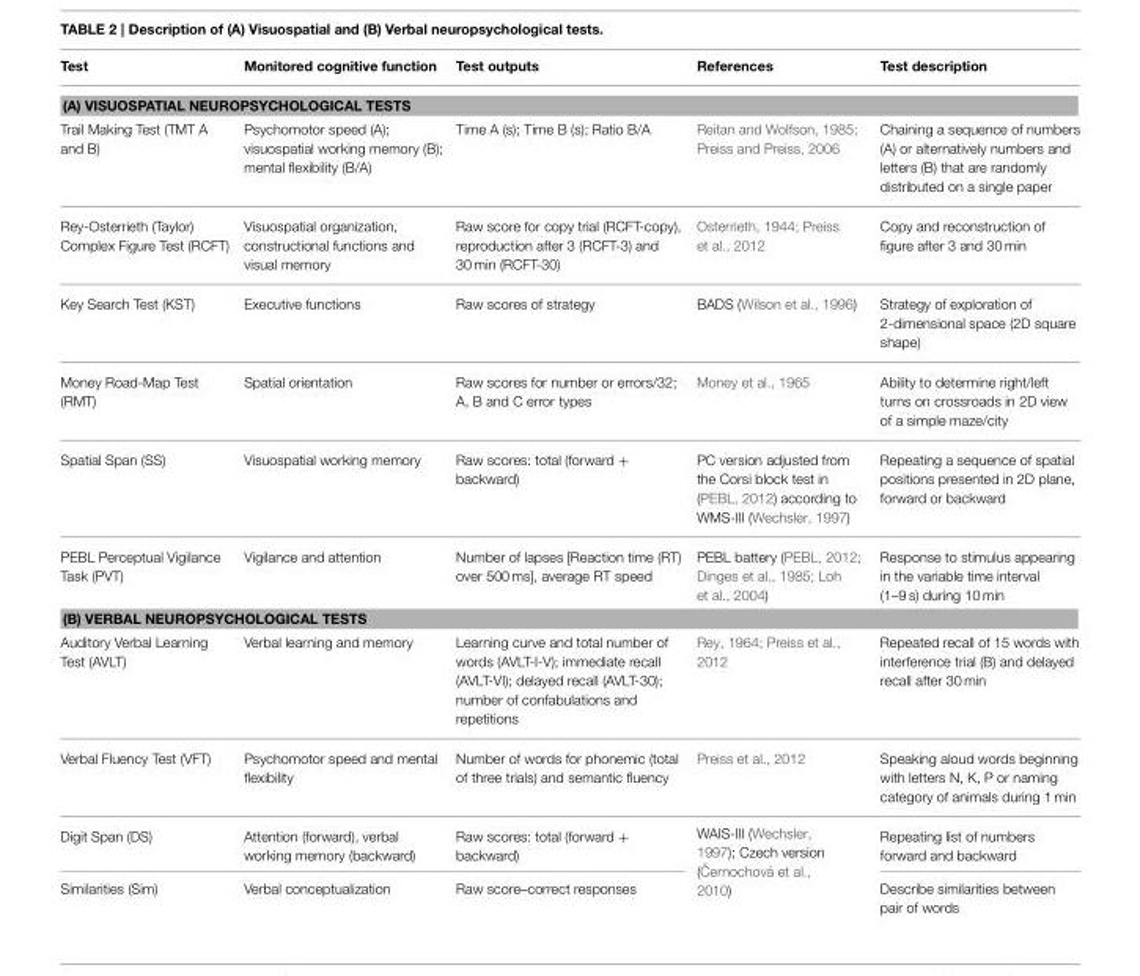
<table><thead><tr><td>Test</td><td>Monitored cognitive function</td><td>Test outputs</td><td>References</td><td>Test description</td></tr></thead><tbody><tr><td colspan="5">(A) VISUOSPATIAL NEUROPSYCHOLOGICAL TESTS</td></tr><tr><td>Trail Making Test (TMT A and B)</td><td>Psychomotor speed (A); visuospatial working memory (B); mental flexibility (B/A)</td><td>Time A (s); Time B (s); Ratio B/A</td><td>Reitan and Wolfson, 1985; Preiss and Preiss, 2006</td><td>Chaining a sequence of numbers (A) or alternatively numbers and letters (B) that are randomly distributed on a single paper</td></tr><tr><td>Rey-Osterrieth (Taylor) Complex Figure Test (RCFT)</td><td>Visuospatial organization, constructional functions and visual memory</td><td>Raw score for copy trial (RCFT-copy), reproduction after 3 (RCFT-3) and 30 min (RCFT-30)</td><td>Osterrieth, 1944; Preiss et al., 2012</td><td>Copy and reconstruction of figure after 3 and 30 min</td></tr><tr><td>Key Search Test (KST)</td><td>Executive functions</td><td>Raw scores of strategy</td><td>BADS (Wilson et al., 1996)</td><td>Strategy of exploration of 2-dimensional space (2D square shape)</td></tr><tr><td>Money Road-Map Test (RMT)</td><td>Spatial orientation</td><td>Raw scores for number or errors/32; A, B and C error types</td><td>Money et al., 1965</td><td>Ability to determine right/left turns on crossroads in 2D view of a simple maze/city</td></tr><tr><td>Spatial Span (SS)</td><td>Visuospatial working memory</td><td>Raw scores: total (forward + backward)</td><td>PC version adjusted from the Corsi block test in (PEBL, 2012) according to WMS-III (Wechsler, 1997)</td><td>Repeating a sequence of spatial positions presented in 2D plane, forward or backward</td></tr><tr><td>PEBL Perceptual Vigilance Task (PVT)</td><td>Vigilance and attention</td><td>Number of lapses [Reaction time (RT) over 500 ms], average RT speed</td><td>PEBL battery (PEBL, 2012; Dinges et al., 1985; Loh et al., 2004)</td><td>Response to stimulus appearing in the variable time interval (1–9 s) during 10 min</td></tr><tr><td colspan="5">(B) VERBAL NEUROPSYCHOLOGICAL TESTS</td></tr><tr><td>Auditory Verbal Learning Test (AVLT)</td><td>Verbal learning and memory</td><td>Learning curve and total number of words (AVLT-I-V); immediate recall (AVLT-VI); delayed recall (AVLT-30); number of confabulations and repetitions</td><td>Rey, 1964; Preiss et al., 2012</td><td>Repeated recall of 15 words with interference trial (B) and delayed recall after 30 min</td></tr><tr><td>Verbal Fluency Test (VFT)</td><td>Psychomotor speed and mental flexibility</td><td>Number of words for phonemic (total of three trials) and semantic fluency</td><td>Preiss et al., 2012</td><td>Speaking aloud words beginning with letters N, K, P or naming category of animals during 1 min</td></tr><tr><td>Digit Span (DS)</td><td>Attention (forward), verbal working memory (backward)</td><td>Raw scores: total (forward + backward)</td><td rowspan="2">WAIS-III (Wechsler, 1997); Czech version ( ˇCernochová et al., 2010)</td><td>Repeating list of numbers forward and backward</td></tr><tr><td>Similarities (Sim)</td><td>Verbal conceptualization</td><td>Raw score–correct responses</td><td>Describe similarities between pair of words</td></tr></tbody></table>